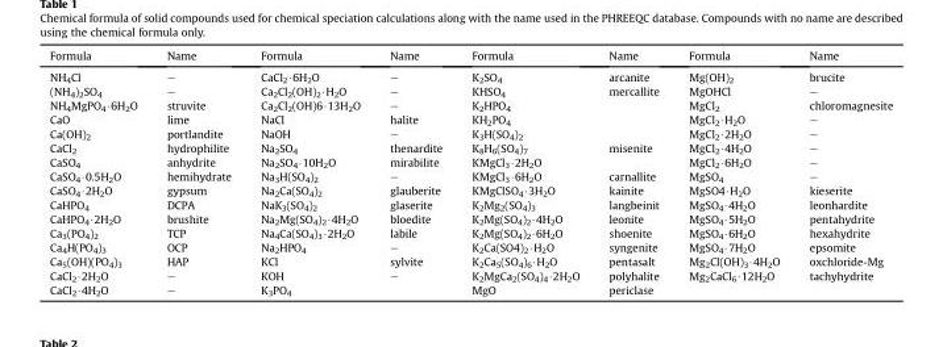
<table><thead><tr><td>Formula</td><td>Name</td><td>Formula</td><td>Name</td><td>Formula</td><td>Name</td><td>Formula</td><td>Name</td></tr></thead><tbody><tr><td>NH<sub>4</sub>Cl</td><td>–</td><td>CaCl<sub>2</sub>·6H<sub>2</sub>O</td><td>–</td><td>K<sub>2</sub>SO<sub>4</sub></td><td>arcanite</td><td>Mg(OH)<sub>2</sub></td><td>brucite</td></tr><tr><td>(NH<sub>4</sub>)<sub>2</sub>SO<sub>4</sub></td><td>–</td><td>Ca<sub>2</sub>Cl<sub>2</sub>(OH)<sub>2</sub>·H<sub>2</sub>O</td><td>–</td><td>KHSO<sub>4</sub></td><td>mercallite</td><td>MgOHCl</td><td>–</td></tr><tr><td>NH<sub>4</sub>MgPO<sub>4</sub>·6H<sub>2</sub>O</td><td>struvite</td><td>Ca<sub>2</sub>Cl<sub>2</sub>(OH)6·13H<sub>2</sub>O</td><td>–</td><td>K<sub>2</sub>HPO<sub>4</sub></td><td></td><td>MgCl<sub>2</sub></td><td>chloromagnesite</td></tr><tr><td>CaO</td><td>lime</td><td>NaCl</td><td>halite</td><td>KH<sub>2</sub>PO<sub>4</sub></td><td></td><td>MgCl<sub>2</sub>·H<sub>2</sub>O</td><td>–</td></tr><tr><td>Ca(OH)<sub>2</sub></td><td>portlandite</td><td>NaOH</td><td>–</td><td>K<sub>3</sub>H(SO<sub>4</sub>)<sub>2</sub></td><td></td><td>MgCl<sub>2</sub>·2H<sub>2</sub>O</td><td>–</td></tr><tr><td>CaCl<sub>2</sub></td><td>hydrophilite</td><td>Na<sub>2</sub>SO<sub>4</sub></td><td>thenardite</td><td>K<sub>8</sub>H<sub>6</sub>(SO<sub>4</sub>)<sub>7</sub></td><td>misenite</td><td>MgCl<sub>2</sub>·4H<sub>2</sub>O</td><td>–</td></tr><tr><td>CaSO<sub>4</sub></td><td>anhydrite</td><td>Na<sub>2</sub>SO<sub>4</sub>·10H<sub>2</sub>O</td><td>mirabilite</td><td>KMgCl<sub>3</sub>·2H<sub>2</sub>O</td><td></td><td>MgCl<sub>2</sub>·6H<sub>2</sub>O</td><td>–</td></tr><tr><td>CaSO<sub>4</sub>·0.5H<sub>2</sub>O</td><td>hemihydrate</td><td>Na<sub>3</sub>H(SO<sub>4</sub>)<sub>2</sub></td><td>–</td><td>KMgCl<sub>3</sub>·6H<sub>2</sub>O</td><td>carnallite</td><td>MgSO<sub>4</sub></td><td>–</td></tr><tr><td>CaSO<sub>4</sub>·2H<sub>2</sub>O</td><td>gypsum</td><td>Na<sub>2</sub>Ca(SO<sub>4</sub>)<sub>2</sub></td><td>glauberite</td><td>KMgClSO<sub>4</sub>·3H<sub>2</sub>O</td><td>kainite</td><td>MgSO4·H<sub>2</sub>O</td><td>kieserite</td></tr><tr><td>CaHPO<sub>4</sub></td><td>DCPA</td><td>NaK<sub>3</sub>(SO<sub>4</sub>)<sub>2</sub></td><td>glaserite</td><td>K<sub>2</sub>Mg<sub>2</sub>(SO<sub>4</sub>)<sub>3</sub></td><td>langbeinit</td><td>MgSO<sub>4</sub>·4H<sub>2</sub>O</td><td>leonhardite</td></tr><tr><td>CaHPO<sub>4</sub>·2H<sub>2</sub>O</td><td>brushite</td><td>Na<sub>2</sub>Mg(SO<sub>4</sub>)<sub>2</sub>·4H<sub>2</sub>O</td><td>bloedite</td><td>K<sub>2</sub>Mg(SO<sub>4</sub>)<sub>2</sub>·4H<sub>2</sub>O</td><td>leonite</td><td>MgSO<sub>4</sub>·5H<sub>2</sub>O</td><td>pentahydrite</td></tr><tr><td>Ca<sub>3</sub>(PO<sub>4</sub>)<sub>2</sub></td><td>TCP</td><td>Na<sub>4</sub>Ca(SO<sub>4</sub>)<sub>3</sub>·2H<sub>2</sub>O</td><td>labile</td><td>K<sub>2</sub>Mg(SO<sub>4</sub>)<sub>2</sub>·6H<sub>2</sub>O</td><td>shoenite</td><td>MgSO<sub>4</sub>·6H<sub>2</sub>O</td><td>hexahydrite</td></tr><tr><td>Ca<sub>4</sub>H(PO<sub>4</sub>)<sub>3</sub></td><td>OCP</td><td>Na<sub>2</sub>HPO<sub>4</sub></td><td>–</td><td>K<sub>2</sub>Ca(SO4)<sub>2</sub>·H<sub>2</sub>O</td><td>syngenite</td><td>MgSO<sub>4</sub>·7H<sub>2</sub>O</td><td>epsomite</td></tr><tr><td>Ca<sub>5</sub>(OH)(PO<sub>4</sub>)<sub>3</sub></td><td>HAP</td><td>KCl</td><td>sylvite</td><td>K<sub>2</sub>Ca<sub>5</sub>(SO<sub>4</sub>)<sub>6</sub>·H<sub>2</sub>O</td><td>pentasalt</td><td>Mg<sub>2</sub>Cl(OH)<sub>3</sub>·4H<sub>2</sub>O</td><td>oxchloride-Mg</td></tr><tr><td>CaCl<sub>2</sub>·2H<sub>2</sub>O</td><td>–</td><td>KOH</td><td>–</td><td>K<sub>2</sub>MgCa<sub>2</sub>(SO<sub>4</sub>)<sub>4</sub>·2H<sub>2</sub>O</td><td>polyhalite</td><td>Mg<sub>2</sub>CaCl<sub>6</sub>·12H<sub>2</sub>O</td><td>tachyhydrite</td></tr><tr><td>CaCl<sub>2</sub>·4H<sub>2</sub>O</td><td>–</td><td>K<sub>3</sub>PO<sub>4</sub></td><td></td><td>MgO</td><td>periclase</td><td></td><td></td></tr></tbody></table>